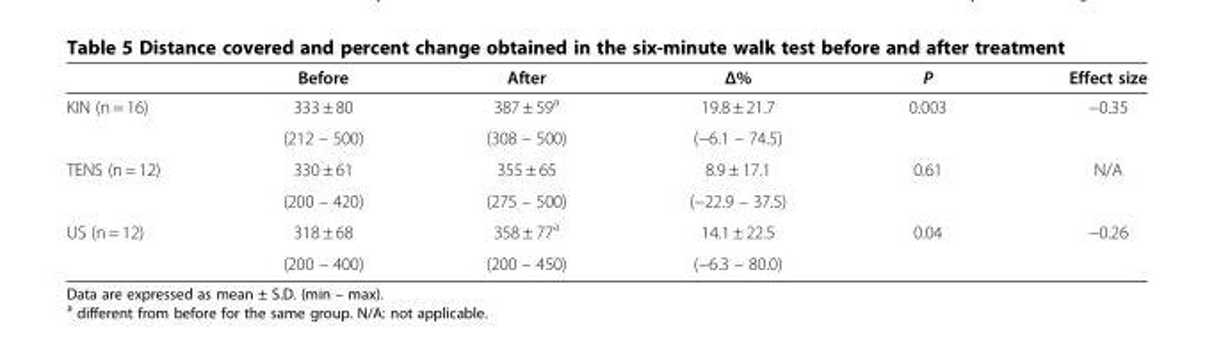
<table><thead><tr><td></td><td>Before</td><td>After</td><td>Δ%</td><td>P</td><td>Effect size</td></tr></thead><tbody><tr><td rowspan="2">KIN (n = 16)</td><td>333 ± 80</td><td>387 ± 59<sup>a</sup></td><td>19.8 ± 21.7</td><td rowspan="2">0.003</td><td rowspan="2">−0.35</td></tr><tr><td>(212 – 500)</td><td>(308 – 500)</td><td>(−6.1 – 74.5)</td></tr><tr><td rowspan="2">TENS (n = 12)</td><td>330 ± 61</td><td>355 ± 65</td><td>8.9 ± 17.1</td><td rowspan="2">0.61</td><td rowspan="2">N/A</td></tr><tr><td>(200 – 420)</td><td>(275 – 500)</td><td>(−22.9 – 37.5)</td></tr><tr><td rowspan="2">US (n = 12)</td><td>318 ± 68</td><td>358 ± 77<sup>a</sup></td><td>14.1 ± 22.5</td><td>0.04</td><td>−0.26</td></tr><tr><td>(200 – 400)</td><td>(200 – 450)</td><td>(−6.3 – 80.0)</td><td></td><td></td></tr></tbody></table>